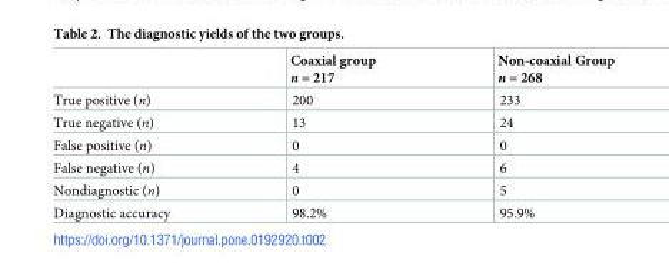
<table><thead><tr><td></td><td>Coaxial group n = 217</td><td>Non-coaxial Group n = 268</td></tr></thead><tbody><tr><td>True positive (n)</td><td>200</td><td>233</td></tr><tr><td>True negative (n)</td><td>13</td><td>24</td></tr><tr><td>False positive (n)</td><td>0</td><td>0</td></tr><tr><td>False negative (n)</td><td>4</td><td>6</td></tr><tr><td>Nondiagnostic (n)</td><td>0</td><td>5</td></tr><tr><td>Diagnostic accuracy</td><td>98.2%</td><td>95.9%</td></tr></tbody></table>